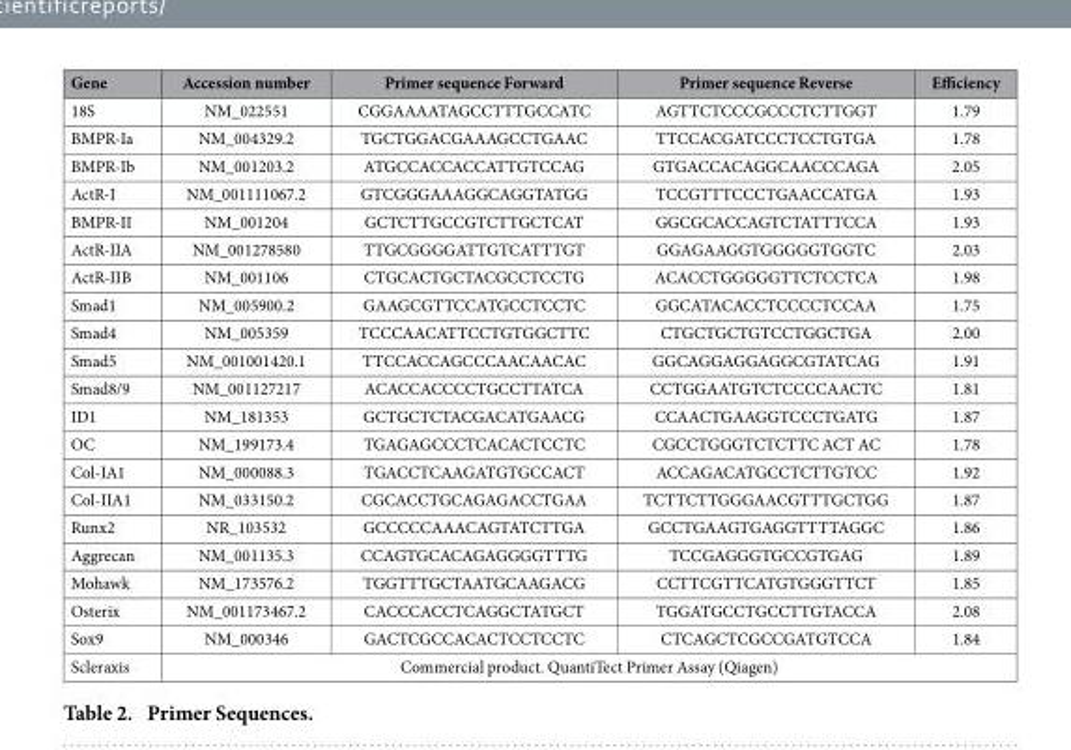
<table><thead><tr><td>Gene</td><td>Accession number</td><td>Primer sequence Forward</td><td>Primer sequence Reverse</td><td>Efficiency</td></tr></thead><tbody><tr><td>18S</td><td>NM_022551</td><td>CGGAAAATAGCCTTTGCCATC</td><td>AGTTCTCCCGCCCTCTTGGT</td><td>1.79</td></tr><tr><td>BMPR-Ia</td><td>NM_004329.2</td><td>TGCTGGACGAAAGCCTGAAC</td><td>TTCCACGATCCCTCCTGTGA</td><td>1.78</td></tr><tr><td>BMPR-Ib</td><td>NM_001203.2</td><td>ATGCCACCACCATTGTCCAG</td><td>GTGACCACAGGCAACCCAGA</td><td>2.05</td></tr><tr><td>ActR-I</td><td>NM_001111067.2</td><td>GTCGGGAAAGGCAGGTATGG</td><td>TCCGTTTCCCTGAACCATGA</td><td>1.93</td></tr><tr><td>BMPR-II</td><td>NM_001204</td><td>GCTCTTGCCGTCTTGCTCAT</td><td>GGCGCACCAGTCTATTTCCA</td><td>1.93</td></tr><tr><td>ActR-IIA</td><td>NM_001278580</td><td>TTGCGGGGATTGTCATTTGT</td><td>GGAGAAGGTGGGGGTGGTC</td><td>2.03</td></tr><tr><td>ActR-IIB</td><td>NM_001106</td><td>CTGCACTGCTACGCCTCCTG</td><td>ACACCTGGGGGTTCTCCTCA</td><td>1.98</td></tr><tr><td>Smad1</td><td>NM_005900.2</td><td>GAAGCGTTCCATGCCTCCTC</td><td>GGCATACACCTCCCCTCCAA</td><td>1.75</td></tr><tr><td>Smad4</td><td>NM_005359</td><td>TCCCAACATTCCTGTGGCTTC</td><td>CTGCTGCTGTCCTGGCTGA</td><td>2.00</td></tr><tr><td>Smad5</td><td>NM_001001420.1</td><td>TTCCACCAGCCCAACAACAC</td><td>GGCAGGAGGAGGCGTATCAG</td><td>1.91</td></tr><tr><td>Smad8/9</td><td>NM_001127217</td><td>ACACCACCCCTGCCTTATCA</td><td>CCTGGAATGTCTCCCCAACTC</td><td>1.81</td></tr><tr><td>ID1</td><td>NM_181353</td><td>GCTGCTCTACGACATGAACG</td><td>CCAACTGAAGGTCCCTGATG</td><td>1.87</td></tr><tr><td>OC</td><td>NM_199173.4</td><td>TGAGAGCCCTCACACTCCTC</td><td>CGCCTGGGTCTCTTC ACT AC</td><td>1.78</td></tr><tr><td>Col-IA1</td><td>NM_000088.3</td><td>TGACCTCAAGATGTGCCACT</td><td>ACCAGACATGCCTCTTGTCC</td><td>1.92</td></tr><tr><td>Col-IIA1</td><td>NM_033150.2</td><td>CGCACCTGCAGAGACCTGAA</td><td>TCTTCTTGGGAACGTTTGCTGG</td><td>1.87</td></tr><tr><td>Runx2</td><td>NR_103532</td><td>GCCCCCAAACAGTATCTTGA</td><td>GCCTGAAGTGAGGTTTTAGGC</td><td>1.86</td></tr><tr><td>Aggrecan</td><td>NM_001135.3</td><td>CCAGTGCACAGAGGGGTTTG</td><td>TCCGAGGGTGCCGTGAG</td><td>1.89</td></tr><tr><td>Mohawk</td><td>NM_173576.2</td><td>TGGTTTGCTAATGCAAGACG</td><td>CCTTCGTTCATGTGGGTTCT</td><td>1.85</td></tr><tr><td>Osterix</td><td>NM_001173467.2</td><td>CACCCACCTCAGGCTATGCT</td><td>TGGATGCCTGCCTTGTACCA</td><td>2.08</td></tr><tr><td>Sox9</td><td>NM_000346</td><td>GACTCGCCACACTCCTCCTC</td><td>CTCAGCTCGCCGATGTCCA</td><td>1.84</td></tr><tr><td>Scleraxis</td><td colspan="4">Commercial product. QuantiTect Primer Assay (Qiagen)</td></tr></tbody></table>